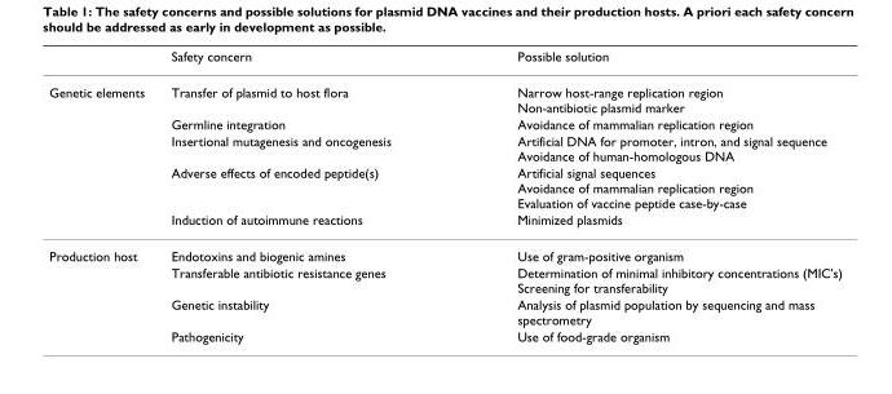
<table><thead><tr><td></td><td>Safety concern</td><td>Possible solution</td></tr></thead><tbody><tr><td rowspan="5">Genetic elements</td><td>Transfer of plasmid to host flora</td><td>Narrow host-range replication region Non-antibiotic plasmid marker</td></tr><tr><td>Germline integration</td><td>Avoidance of mammalian replication region</td></tr><tr><td>Insertional mutagenesis and oncogenesis</td><td>Artificial DNA for promoter, intron, and signal sequence Avoidance of human-homologous DNA</td></tr><tr><td>Adverse effects of encoded peptide(s)</td><td>Artificial signal sequences Avoidance of mammalian replication region Evaluation of vaccine peptide case-by-case</td></tr><tr><td>Induction of autoimmune reactions</td><td>Minimized plasmids</td></tr><tr><td rowspan="4">Production host</td><td>Endotoxins and biogenic amines</td><td>Use of gram-positive organism</td></tr><tr><td>Transferable antibiotic resistance genes</td><td>Determination of minimal inhibitory concentrations (MIC&#x27;s) Screening for transferability</td></tr><tr><td>Genetic instability</td><td>Analysis of plasmid population by sequencing and mass spectrometry</td></tr><tr><td>Pathogenicity</td><td>Use of food-grade organism</td></tr></tbody></table>